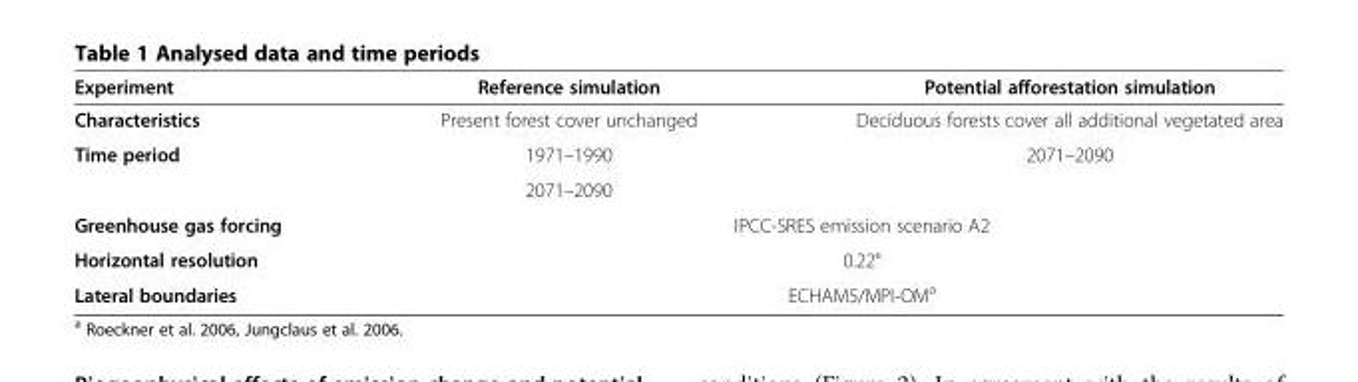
<table><thead><tr><td>Experiment</td><td>Reference simulation</td><td>Potential afforestation simulation</td></tr></thead><tbody><tr><td>Characteristics</td><td>Present forest cover unchanged</td><td>Deciduous forests cover all additional vegetated area</td></tr><tr><td rowspan="2">Time period</td><td>1971–1990</td><td rowspan="2">2071–2090</td></tr><tr><td>2071–2090</td></tr><tr><td>Greenhouse gas forcing</td><td colspan="2">IPCC-SRES emission scenario A2</td></tr><tr><td>Horizontal resolution</td><td colspan="2">0.22°</td></tr><tr><td>Lateral boundaries</td><td colspan="2">ECHAM5/MPI-OM<sup>a</sup></td></tr></tbody></table>